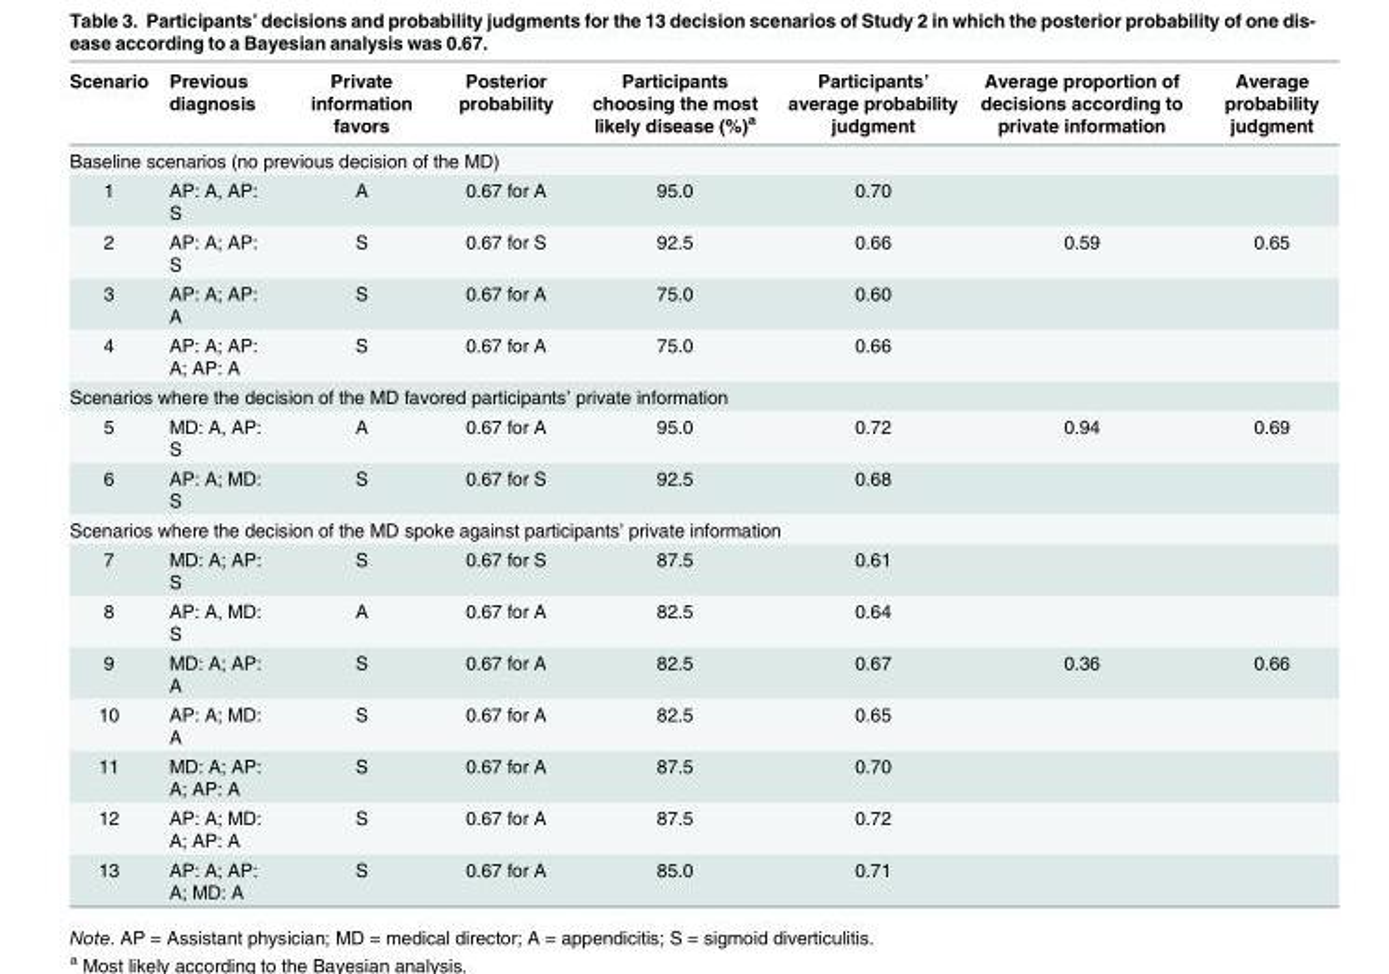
<table><thead><tr><td>Scenario</td><td>Previous diagnosis</td><td>Private information favors</td><td>Posterior probability</td><td>Participants choosing the most likely disease (%)<sup>a</sup></td><td>Participants’ average probability judgment</td><td>Average proportion of decisions according to private information</td><td>Average probability judgment</td></tr></thead><tbody><tr><td colspan="8">Baseline scenarios (no previous decision of the MD)</td></tr><tr><td>1</td><td>AP: A, AP: S</td><td>A</td><td>0.67 for A</td><td>95.0</td><td>0.70</td><td></td><td></td></tr><tr><td>2</td><td>AP: A; AP: S</td><td>S</td><td>0.67 for S</td><td>92.5</td><td>0.66</td><td>0.59</td><td>0.65</td></tr><tr><td>3</td><td>AP: A; AP: A</td><td>S</td><td>0.67 for A</td><td>75.0</td><td>0.60</td><td></td><td></td></tr><tr><td>4</td><td>AP: A; AP: A; AP: A</td><td>S</td><td>0.67 for A</td><td>75.0</td><td>0.66</td><td></td><td></td></tr><tr><td colspan="8">Scenarios where the decision of the MD favored participants’ private information</td></tr><tr><td>5</td><td>MD: A, AP: S</td><td>A</td><td>0.67 for A</td><td>95.0</td><td>0.72</td><td>0.94</td><td>0.69</td></tr><tr><td>6</td><td>AP: A; MD: S</td><td>S</td><td>0.67 for S</td><td>92.5</td><td>0.68</td><td></td><td></td></tr><tr><td colspan="8">Scenarios where the decision of the MD spoke against participants’ private information</td></tr><tr><td>7</td><td>MD: A; AP: S</td><td>S</td><td>0.67 for S</td><td>87.5</td><td>0.61</td><td></td><td></td></tr><tr><td>8</td><td>AP: A, MD: S</td><td>A</td><td>0.67 for A</td><td>82.5</td><td>0.64</td><td></td><td></td></tr><tr><td>9</td><td>MD: A; AP: A</td><td>S</td><td>0.67 for A</td><td>82.5</td><td>0.67</td><td>0.36</td><td>0.66</td></tr><tr><td>10</td><td>AP: A; MD: A</td><td>S</td><td>0.67 for A</td><td>82.5</td><td>0.65</td><td></td><td></td></tr><tr><td>11</td><td>MD: A; AP: A; AP: A</td><td>S</td><td>0.67 for A</td><td>87.5</td><td>0.70</td><td></td><td></td></tr><tr><td>12</td><td>AP: A; MD: A; AP: A</td><td>S</td><td>0.67 for A</td><td>87.5</td><td>0.72</td><td></td><td></td></tr><tr><td>13</td><td>AP: A; AP: A; MD: A</td><td>S</td><td>0.67 for A</td><td>85.0</td><td>0.71</td><td></td><td></td></tr></tbody></table>